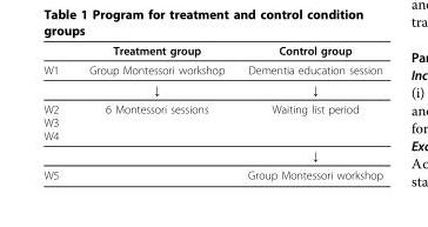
<table><thead><tr><td></td><td>Treatment group</td><td>Control group</td></tr></thead><tbody><tr><td rowspan="2">W1</td><td>Group Montessori workshop</td><td>Dementia education session</td></tr><tr><td>↓</td><td>↓</td></tr><tr><td rowspan="2">W2 W3 W4</td><td>6 Montessori sessions</td><td>Waiting list period</td></tr><tr><td></td><td>↓</td></tr><tr><td>W5</td><td></td><td>Group Montessori workshop</td></tr></tbody></table>